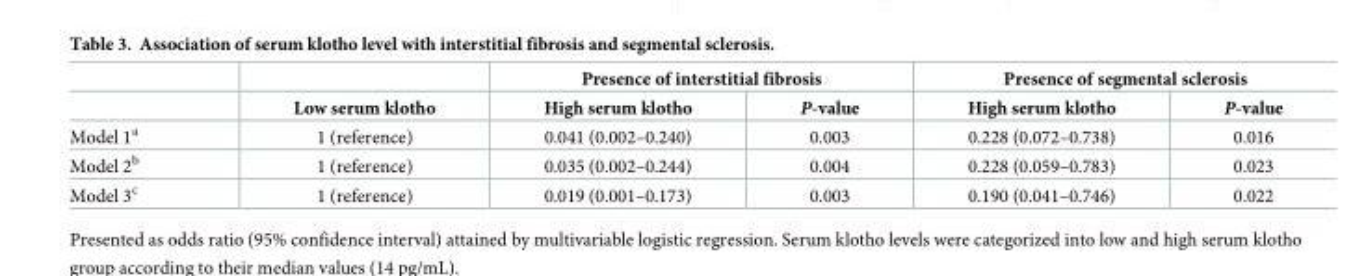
<table><thead><tr><td rowspan="2"></td><td rowspan="2">Low serum klotho</td><td colspan="2">Presence of interstitial fibrosis</td><td colspan="2">Presence of segmental sclerosis</td></tr><tr><td>High serum klotho</td><td>P-value</td><td>High serum klotho</td><td>P-value</td></tr></thead><tbody><tr><td>Model 1<sup>a</sup></td><td>1 (reference)</td><td>0.041 (0.002–0.240)</td><td>0.003</td><td>0.228 (0.072–0.738)</td><td>0.016</td></tr><tr><td>Model 2<sup>b</sup></td><td>1 (reference)</td><td>0.035 (0.002–0.244)</td><td>0.004</td><td>0.228 (0.059–0.783)</td><td>0.023</td></tr><tr><td>Model 3<sup>c</sup></td><td>1 (reference)</td><td>0.019 (0.001–0.173)</td><td>0.003</td><td>0.190 (0.041–0.746)</td><td>0.022</td></tr></tbody></table>